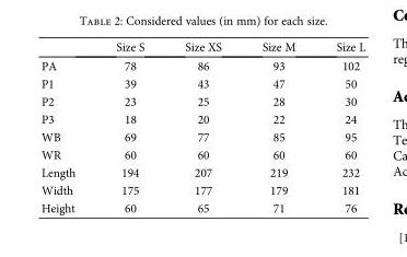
<table><thead><tr><td></td><td>Size S</td><td>Size XS</td><td>Size M</td><td>Size L</td></tr></thead><tbody><tr><td>PA</td><td>78</td><td>86</td><td>93</td><td>102</td></tr><tr><td>P1</td><td>39</td><td>43</td><td>47</td><td>50</td></tr><tr><td>P2</td><td>23</td><td>25</td><td>28</td><td>30</td></tr><tr><td>P3</td><td>18</td><td>20</td><td>22</td><td>24</td></tr><tr><td>WB</td><td>69</td><td>77</td><td>85</td><td>95</td></tr><tr><td>WR</td><td>60</td><td>60</td><td>60</td><td>60</td></tr><tr><td>Length</td><td>194</td><td>207</td><td>219</td><td>232</td></tr><tr><td>Width</td><td>175</td><td>177</td><td>179</td><td>181</td></tr><tr><td>Height</td><td>60</td><td>65</td><td>71</td><td>76</td></tr></tbody></table>